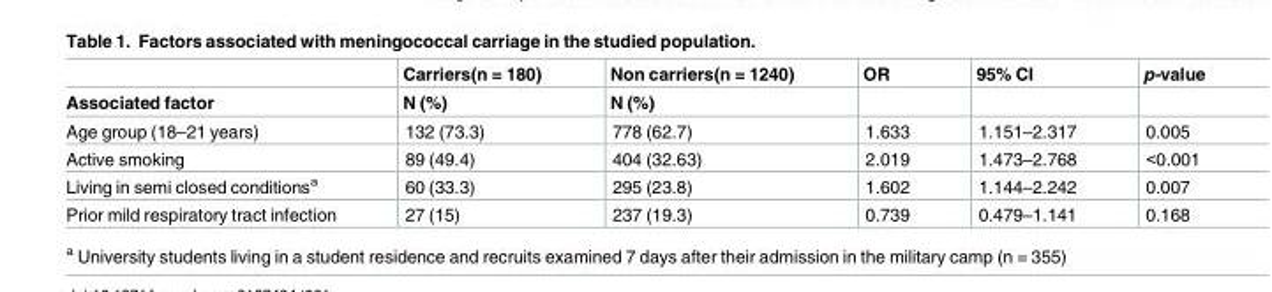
<table><thead><tr><td rowspan="2">Associated factor</td><td rowspan="2">Carriers(n = 180) N (%)</td><td rowspan="2">Non carriers(n = 1240) N (%)</td><td rowspan="2">OR</td><td rowspan="2">95% CI</td><td rowspan="2">p-value</td></tr><tr></tr></thead><tbody><tr><td>Age group (18–21 years)</td><td>132 (73.3)</td><td>778 (62.7)</td><td>1.633</td><td>1.151–2.317</td><td>0.005</td></tr><tr><td>Active smoking</td><td>89 (49.4)</td><td>404 (32.63)</td><td>2.019</td><td>1.473–2.768</td><td>&lt;0.001</td></tr><tr><td>Living in semi closed conditions<sup>a</sup></td><td>60 (33.3)</td><td>295 (23.8)</td><td>1.602</td><td>1.144–2.242</td><td>0.007</td></tr><tr><td>Prior mild respiratory tract infection</td><td>27 (15)</td><td>237 (19.3)</td><td>0.739</td><td>0.479–1.141</td><td>0.168</td></tr></tbody></table>